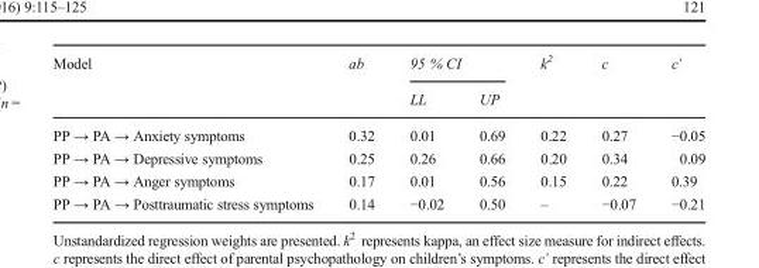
<table><thead><tr><td rowspan="2">Model</td><td rowspan="2">ab</td><td colspan="2">95 % CI</td><td rowspan="2">k<sup>2</sup></td><td rowspan="2">c</td><td rowspan="2">c’</td></tr><tr><td>LL</td><td>UP</td></tr></thead><tbody><tr><td>PP → PA → Anxiety symptoms</td><td>0.32</td><td>0.01</td><td>0.69</td><td>0.22</td><td>0.27</td><td>−0.05</td></tr><tr><td>PP → PA → Depressive symptoms PP → PA → Anger symptoms PP → PA → Posttraumatic stress symptoms</td><td>0.25 0.17 0.14</td><td>0.26 0.01 −0.02</td><td>0.66 0.56 0.50</td><td>0.20 0.15 –</td><td>0.34 0.22 −0.07</td><td>0.09 0.39 −0.21</td></tr></tbody></table>